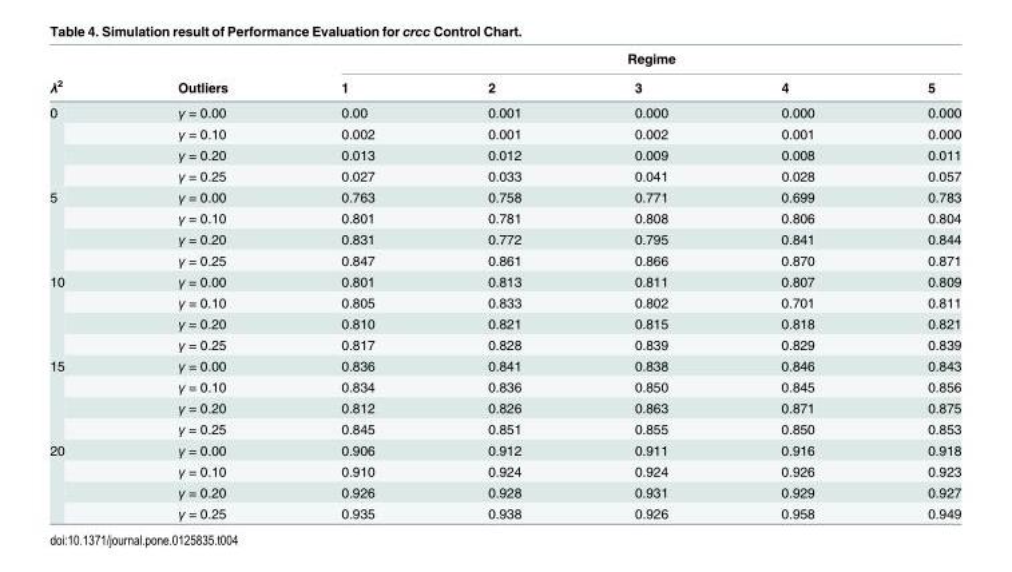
<table><thead><tr><td rowspan="2">λ<sup>2</sup></td><td rowspan="2">Outliers</td><td colspan="5">Regime</td></tr><tr><td>1</td><td>2</td><td>3</td><td>4</td><td>5</td></tr></thead><tbody><tr><td rowspan="4">0</td><td>γ = 0.00</td><td>0.00</td><td>0.001</td><td>0.000</td><td>0.000</td><td>0.000</td></tr><tr><td>γ = 0.10</td><td>0.002</td><td>0.001</td><td>0.002</td><td>0.001</td><td>0.000</td></tr><tr><td>γ = 0.20</td><td>0.013</td><td>0.012</td><td>0.009</td><td>0.008</td><td>0.011</td></tr><tr><td>γ = 0.25</td><td>0.027</td><td>0.033</td><td>0.041</td><td>0.028</td><td>0.057</td></tr><tr><td rowspan="4">5</td><td>γ = 0.00</td><td>0.763</td><td>0.758</td><td>0.771</td><td>0.699</td><td>0.783</td></tr><tr><td>γ = 0.10</td><td>0.801</td><td>0.781</td><td>0.808</td><td>0.806</td><td>0.804</td></tr><tr><td>γ = 0.20</td><td>0.831</td><td>0.772</td><td>0.795</td><td>0.841</td><td>0.844</td></tr><tr><td>γ = 0.25</td><td>0.847</td><td>0.861</td><td>0.866</td><td>0.870</td><td>0.871</td></tr><tr><td rowspan="4">10</td><td>γ = 0.00</td><td>0.801</td><td>0.813</td><td>0.811</td><td>0.807</td><td>0.809</td></tr><tr><td>γ = 0.10</td><td>0.805</td><td>0.833</td><td>0.802</td><td>0.701</td><td>0.811</td></tr><tr><td>γ = 0.20</td><td>0.810</td><td>0.821</td><td>0.815</td><td>0.818</td><td>0.821</td></tr><tr><td>γ = 0.25</td><td>0.817</td><td>0.828</td><td>0.839</td><td>0.829</td><td>0.839</td></tr><tr><td rowspan="4">15</td><td>γ = 0.00</td><td>0.836</td><td>0.841</td><td>0.838</td><td>0.846</td><td>0.843</td></tr><tr><td>γ = 0.10</td><td>0.834</td><td>0.836</td><td>0.850</td><td>0.845</td><td>0.856</td></tr><tr><td>γ = 0.20</td><td>0.812</td><td>0.826</td><td>0.863</td><td>0.871</td><td>0.875</td></tr><tr><td>γ = 0.25</td><td>0.845</td><td>0.851</td><td>0.855</td><td>0.850</td><td>0.853</td></tr><tr><td rowspan="4">20</td><td>γ = 0.00</td><td>0.906</td><td>0.912</td><td>0.911</td><td>0.916</td><td>0.918</td></tr><tr><td>γ = 0.10</td><td>0.910</td><td>0.924</td><td>0.924</td><td>0.926</td><td>0.923</td></tr><tr><td>γ = 0.20</td><td>0.926</td><td>0.928</td><td>0.931</td><td>0.929</td><td>0.927</td></tr><tr><td>γ = 0.25</td><td>0.935</td><td>0.938</td><td>0.926</td><td>0.958</td><td>0.949</td></tr></tbody></table>